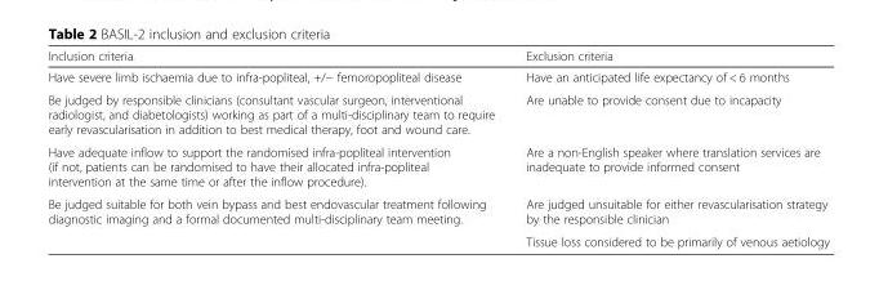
<table><thead><tr><td>Inclusion criteria</td><td>Exclusion criteria</td></tr></thead><tbody><tr><td>Have severe limb ischaemia due to infra-popliteal, +/− femoropopliteal disease</td><td>Have an anticipated life expectancy of &lt; 6 months</td></tr><tr><td>Be judged by responsible clinicians (consultant vascular surgeon, interventional radiologist, and diabetologists) working as part of a multi-disciplinary team to require early revascularisation in addition to best medical therapy, foot and wound care.</td><td>Are unable to provide consent due to incapacity</td></tr><tr><td>Have adequate inflow to support the randomised infra-popliteal intervention (if not, patients can be randomised to have their allocated infra-popliteal intervention at the same time or after the inflow procedure).</td><td>Are a non-English speaker where translation services are inadequate to provide informed consent</td></tr><tr><td rowspan="2">Be judged suitable for both vein bypass and best endovascular treatment following diagnostic imaging and a formal documented multi-disciplinary team meeting.</td><td>Are judged unsuitable for either revascularisation strategy by the responsible clinician</td></tr><tr><td>Tissue loss considered to be primarily of venous aetiology</td></tr></tbody></table>